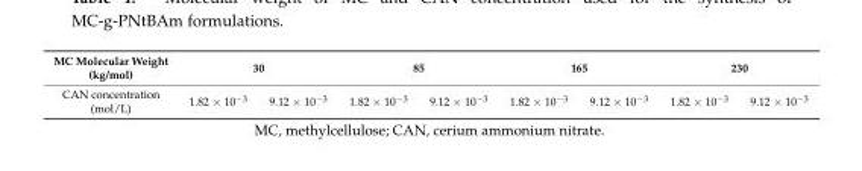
<table><thead><tr><td rowspan="2">MC Molecular Weight (kg/mol) CAN concentration (mol/L)</td><td colspan="2">30</td><td colspan="2">85</td><td colspan="2">165</td><td colspan="2">230</td></tr><tr><td>1.82 × 10<sup>−3</sup></td><td>9.12 × 10<sup>−3</sup></td><td>1.82 × 10<sup>−3</sup></td><td>9.12 × 10<sup>−3</sup></td><td>1.82 × 10<sup>−3</sup></td><td>9.12 × 10<sup>−3</sup></td><td>1.82 × 10<sup>−3</sup></td><td>9.12 × 10<sup>−3</sup></td></tr></thead><tbody></tbody></table>